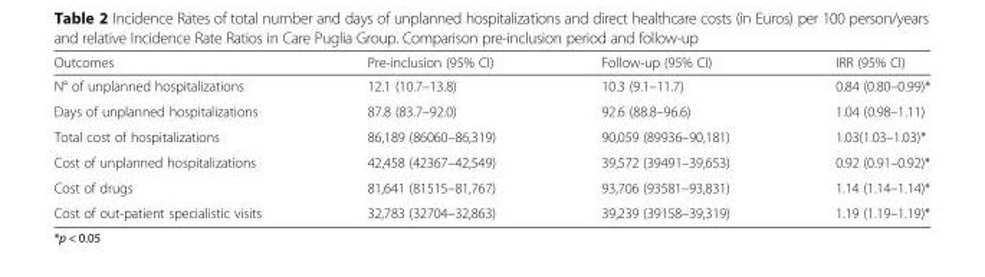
<table><thead><tr><td>Outcomes</td><td>Pre-inclusion (95% CI)</td><td>Follow-up (95% CI)</td><td>IRR (95% CI)</td></tr></thead><tbody><tr><td>N° of unplanned hospitalizations</td><td>12.1 (10.7–13.8)</td><td>10.3 (9.1–11.7)</td><td>0.84 (0.80–0.99)*</td></tr><tr><td>Days of unplanned hospitalizations</td><td>87.8 (83.7–92.0)</td><td>92.6 (88.8–96.6)</td><td>1.04 (0.98–1.11)</td></tr><tr><td>Total cost of hospitalizations</td><td>86,189 (86060–86,319)</td><td>90,059 (89936–90,181)</td><td>1.03(1.03–1.03)*</td></tr><tr><td>Cost of unplanned hospitalizations</td><td>42,458 (42367–42,549)</td><td>39,572 (39491–39,653)</td><td>0.92 (0.91–0.92)*</td></tr><tr><td>Cost of drugs</td><td>81,641 (81515–81,767)</td><td>93,706 (93581–93,831)</td><td>1.14 (1.14–1.14)*</td></tr><tr><td>Cost of out-patient specialistic visits</td><td>32,783 (32704–32,863)</td><td>39,239 (39158–39,319)</td><td>1.19 (1.19–1.19)*</td></tr></tbody></table>